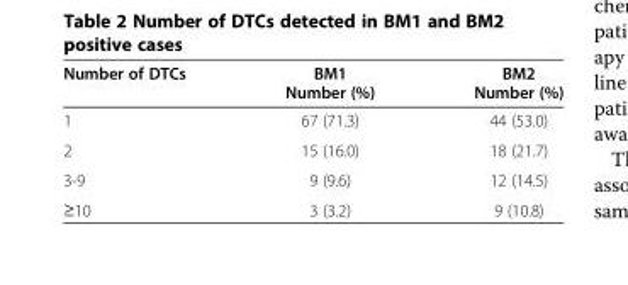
<table><thead><tr><td>Number of DTCs</td><td>BM1 Number (%)</td><td>BM2 Number (%)</td></tr></thead><tbody><tr><td>1</td><td>67 (71.3)</td><td>44 (53.0)</td></tr><tr><td>2</td><td>15 (16.0)</td><td>18 (21.7)</td></tr><tr><td>3-9</td><td>9 (9.6)</td><td>12 (14.5)</td></tr><tr><td>≥10</td><td>3 (3.2)</td><td>9 (10.8)</td></tr></tbody></table>